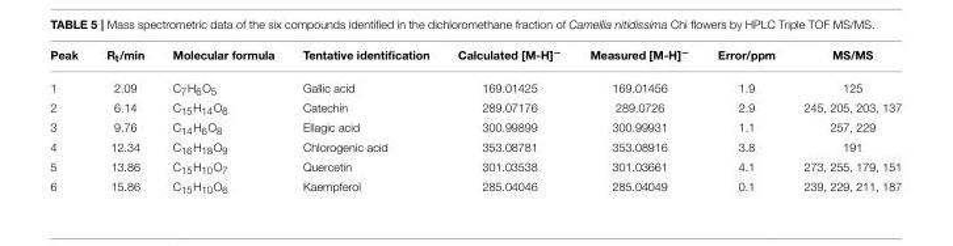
<table><thead><tr><td>Peak</td><td>R<sub>t</sub>/min</td><td>Molecular formula</td><td>Tentative identification</td><td>Calculated [M-H]<sup>−</sup></td><td>Measured [M-H]<sup>−</sup></td><td>Error/ppm</td><td>MS/MS</td></tr></thead><tbody><tr><td>1</td><td>2.09</td><td>C<sub>7</sub>H<sub>6</sub>O<sub>5</sub></td><td>Gallic acid</td><td>169.01425</td><td>169.01456</td><td>1.9</td><td>125</td></tr><tr><td>2</td><td>6.14</td><td>C<sub>15</sub>H<sub>14</sub>O<sub>6</sub></td><td>Catechin</td><td>289.07176</td><td>289.0726</td><td>2.9</td><td>245, 205, 203, 137</td></tr><tr><td>3</td><td>9.76</td><td>C<sub>14</sub>H<sub>6</sub>O<sub>8</sub></td><td>Ellagic acid</td><td>300.99899</td><td>300.99931</td><td>1.1</td><td>257, 229</td></tr><tr><td>4</td><td>12.34</td><td>C<sub>16</sub>H<sub>18</sub>O<sub>9</sub></td><td>Chlorogenic acid</td><td>353.08781</td><td>353.08916</td><td>3.8</td><td>191</td></tr><tr><td>5</td><td>13.86</td><td>C<sub>15</sub>H<sub>10</sub>O<sub>7</sub></td><td>Quercetin</td><td>301.03538</td><td>301.03661</td><td>4.1</td><td>273, 255, 179, 151</td></tr><tr><td>6</td><td>15.86</td><td>C<sub>15</sub>H<sub>10</sub>O<sub>6</sub></td><td>Kaempferol</td><td>285.04046</td><td>285.04049</td><td>0.1</td><td>239, 229, 211, 187</td></tr></tbody></table>